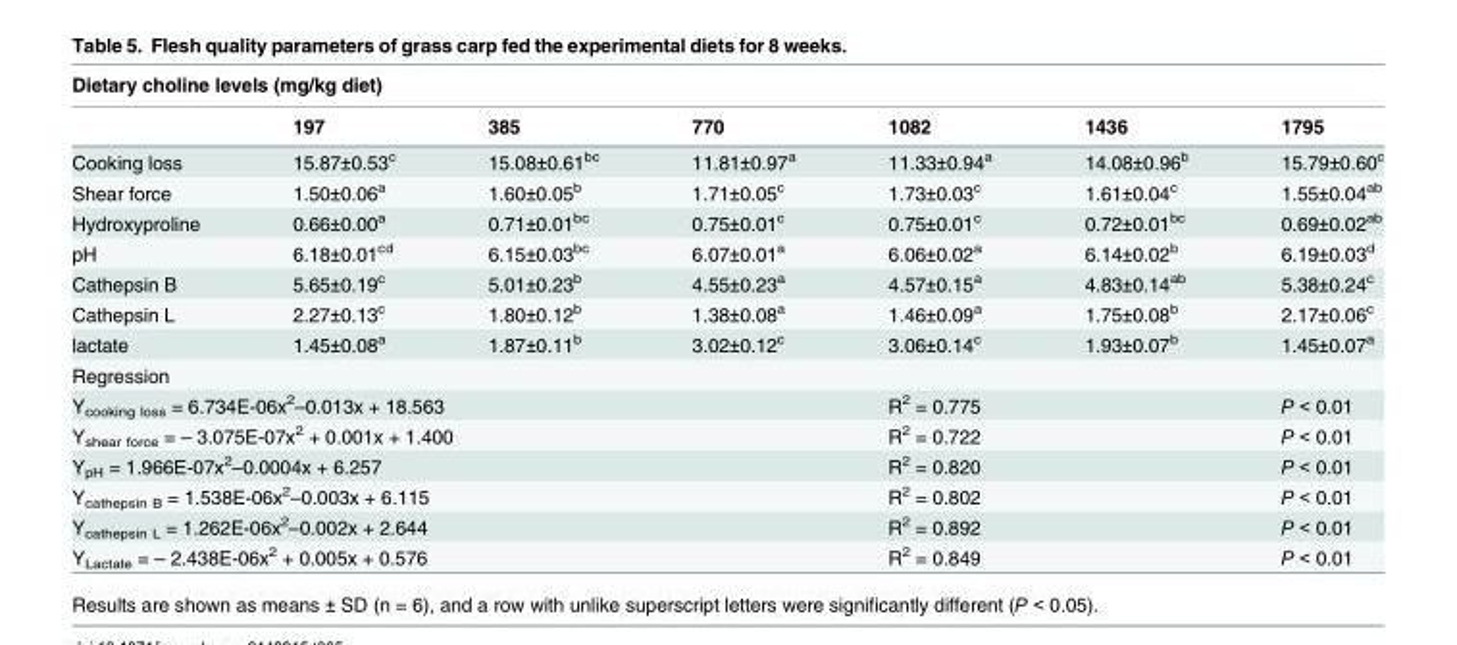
<table><thead><tr><td colspan="7">Dietary choline levels (mg/kg diet)</td></tr><tr><td></td><td>197</td><td>385</td><td>770</td><td>1082</td><td>1436</td><td>1795</td></tr></thead><tbody><tr><td>Cooking loss</td><td>15.87±0.53<sup>c</sup></td><td>15.08±0.61<sup>bc</sup></td><td>11.81±0.97<sup>a</sup></td><td>11.33±0.94<sup>a</sup></td><td>14.08±0.96<sup>b</sup></td><td>15.79±0.60<sup>c</sup></td></tr><tr><td>Shear force</td><td>1.50±0.06<sup>a</sup></td><td>1.60±0.05<sup>b</sup></td><td>1.71±0.05<sup>c</sup></td><td>1.73±0.03<sup>c</sup></td><td>1.61±0.04<sup>c</sup></td><td>1.55±0.04<sup>ab</sup></td></tr><tr><td>Hydroxyproline</td><td>0.66±0.00<sup>a</sup></td><td>0.71±0.01<sup>bc</sup></td><td>0.75±0.01<sup>c</sup></td><td>0.75±0.01<sup>c</sup></td><td>0.72±0.01<sup>bc</sup></td><td>0.69±0.02<sup>ab</sup></td></tr><tr><td>pH</td><td>6.18±0.01<sup>cd</sup></td><td>6.15±0.03<sup>bc</sup></td><td>6.07±0.01<sup>a</sup></td><td>6.06±0.02<sup>a</sup></td><td>6.14±0.02<sup>b</sup></td><td>6.19±0.03<sup>d</sup></td></tr><tr><td>Cathepsin B</td><td>5.65±0.19<sup>c</sup></td><td>5.01±0.23<sup>b</sup></td><td>4.55±0.23<sup>a</sup></td><td>4.57±0.15<sup>a</sup></td><td>4.83±0.14<sup>ab</sup></td><td>5.38±0.24<sup>c</sup></td></tr><tr><td>Cathepsin L</td><td>2.27±0.13<sup>c</sup></td><td>1.80±0.12<sup>b</sup></td><td>1.38±0.08<sup>a</sup></td><td>1.46±0.09<sup>a</sup></td><td>1.75±0.08<sup>b</sup></td><td>2.17±0.06<sup>c</sup></td></tr><tr><td>lactate</td><td>1.45±0.08<sup>a</sup></td><td>1.87±0.11<sup>b</sup></td><td>3.02±0.12<sup>c</sup></td><td>3.06±0.14<sup>c</sup></td><td>1.93±0.07<sup>b</sup></td><td>1.45±0.07<sup>a</sup></td></tr><tr><td colspan="7">Regression</td></tr><tr><td colspan="4">Y<sub>cooking loss</sub> = 6.734E-06x<sup>2</sup>–0.013x + 18.563</td><td colspan="2">R<sup>2</sup> = 0.775</td><td>P &lt; 0.01</td></tr><tr><td colspan="4">Y<sub>shear force</sub> = – 3.075E-07x<sup>2</sup> + 0.001x + 1.400</td><td colspan="2">R<sup>2</sup> = 0.722</td><td>P &lt; 0.01</td></tr><tr><td colspan="4">Y<sub>pH</sub> = 1.966E-07x<sup>2</sup>–0.0004x + 6.257</td><td colspan="2">R<sup>2</sup> = 0.820</td><td>P &lt; 0.01</td></tr><tr><td colspan="4">Y<sub>cathepsin B</sub> = 1.538E-06x<sup>2</sup>–0.003x + 6.115</td><td colspan="2">R<sup>2</sup> = 0.802</td><td>P &lt; 0.01</td></tr><tr><td colspan="4">Y<sub>cathepsin L</sub> = 1.262E-06x<sup>2</sup>–0.002x + 2.644</td><td colspan="2">R<sup>2</sup> = 0.892</td><td>P &lt; 0.01</td></tr><tr><td colspan="4">Y<sub>Lactate</sub> = – 2.438E-06x<sup>2</sup> + 0.005x + 0.576</td><td colspan="2">R<sup>2</sup> = 0.849</td><td>P &lt; 0.01</td></tr></tbody></table>